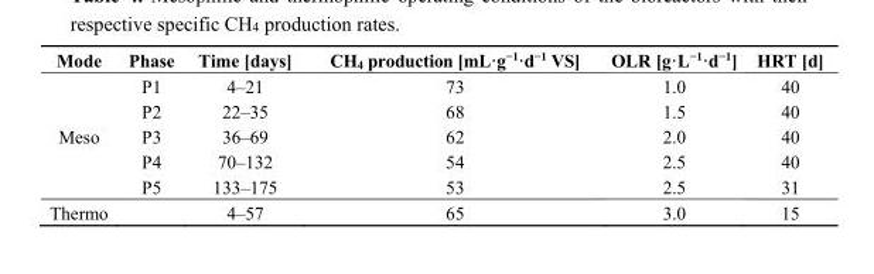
<table><thead><tr><td>Mode</td><td>Phase</td><td>Time [days]</td><td>CH<sub>4</sub> production [mL·g<sup>−1</sup>·d<sup>−1</sup> VS]</td><td>OLR [g·L<sup>−1</sup>·d<sup>−1</sup>]</td><td>HRT [d]</td></tr></thead><tbody><tr><td rowspan="5">Meso</td><td>P1</td><td>4–21</td><td>73</td><td>1.0</td><td>40</td></tr><tr><td>P2</td><td>22–35</td><td>68</td><td>1.5</td><td>40</td></tr><tr><td>P3</td><td>36–69</td><td>62</td><td>2.0</td><td>40</td></tr><tr><td>P4</td><td>70–132</td><td>54</td><td>2.5</td><td>40</td></tr><tr><td>P5</td><td>133–175</td><td>53</td><td>2.5</td><td>31</td></tr><tr><td>Thermo</td><td></td><td>4–57</td><td>65</td><td>3.0</td><td>15</td></tr></tbody></table>